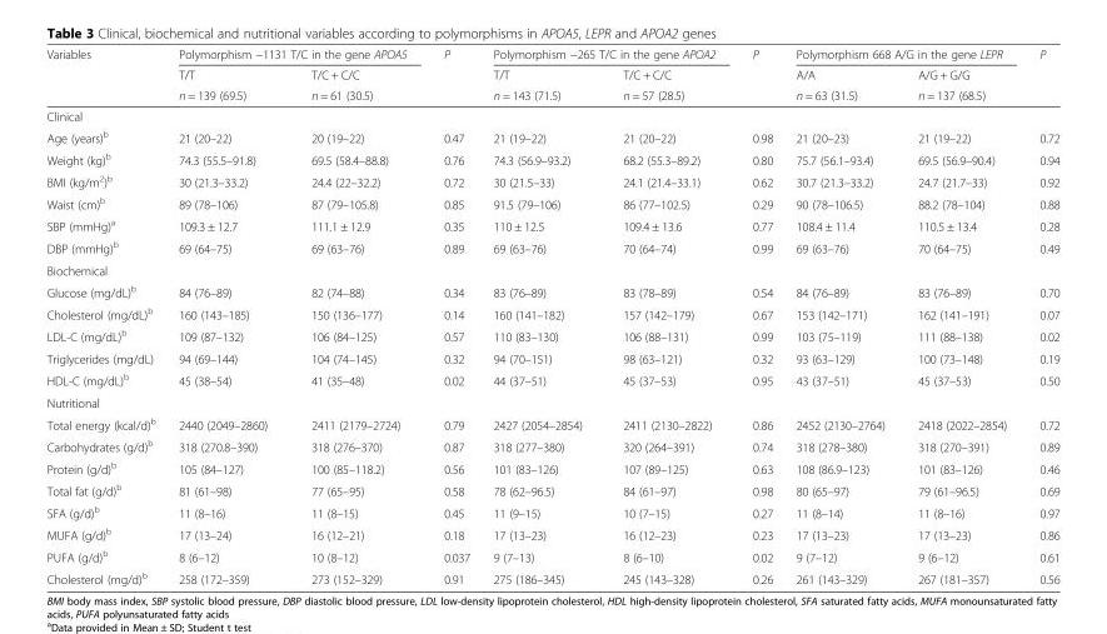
<table><thead><tr><td rowspan="3">Variables</td><td colspan="2">Polymorphism −1131 T/C in the gene APOA5</td><td rowspan="3">P</td><td colspan="2">Polymorphism −265 T/C in the gene APOA2</td><td rowspan="3">P</td><td colspan="2">Polymorphism 668 A/G in the gene LEPR</td><td rowspan="3">P</td></tr><tr><td rowspan="2">T/T n = 139 (69.5)</td><td rowspan="2">T/C + C/C n = 61 (30.5)</td><td rowspan="2">T/T n = 143 (71.5)</td><td rowspan="2">T/C + C/C n = 57 (28.5)</td><td rowspan="2">A/A n = 63 (31.5)</td><td rowspan="2">A/G + G/G n = 137 (68.5)</td></tr><tr></tr></thead><tbody><tr><td colspan="10">Clinical</td></tr><tr><td>Age (years)<sup>b</sup></td><td>21 (20–22)</td><td>20 (19–22)</td><td>0.47</td><td>21 (19–22)</td><td>21 (20–22)</td><td>0.98</td><td>21 (20–23)</td><td>21 (19–22)</td><td>0.72</td></tr><tr><td>Weight (kg)<sup>b</sup></td><td>74.3 (55.5–91.8)</td><td>69.5 (58.4–88.8)</td><td>0.76</td><td>74.3 (56.9–93.2)</td><td>68.2 (55.3–89.2)</td><td>0.80</td><td>75.7 (56.1–93.4)</td><td>69.5 (56.9–90.4)</td><td>0.94</td></tr><tr><td>BMI (kg/m<sup>2</sup>)<sup>b</sup></td><td>30 (21.3–33.2)</td><td>24.4 (22–32.2)</td><td>0.72</td><td>30 (21.5–33)</td><td>24.1 (21.4–33.1)</td><td>0.62</td><td>30.7 (21.3–33.2)</td><td>24.7 (21.7–33)</td><td>0.92</td></tr><tr><td>Waist (cm)<sup>b</sup></td><td>89 (78–106)</td><td>87 (79–105.8)</td><td>0.85</td><td>91.5 (79–106)</td><td>86 (77–102.5)</td><td>0.29</td><td>90 (78–106.5)</td><td>88.2 (78–104)</td><td>0.88</td></tr><tr><td>SBP (mmHg)<sup>a</sup></td><td>109.3 ± 12.7</td><td>111.1 ± 12.9</td><td>0.35</td><td>110 ± 12.5</td><td>109.4 ± 13.6</td><td>0.77</td><td>108.4 ± 11.4</td><td>110.5 ± 13.4</td><td>0.28</td></tr><tr><td>DBP (mmHg)<sup>b</sup></td><td>69 (64–75)</td><td>69 (63–76)</td><td>0.89</td><td>69 (63–76)</td><td>70 (64–74)</td><td>0.99</td><td>69 (63–76)</td><td>70 (64–75)</td><td>0.49</td></tr><tr><td colspan="10">Biochemical</td></tr><tr><td>Glucose (mg/dL)<sup>b</sup></td><td>84 (76–89)</td><td>82 (74–88)</td><td>0.34</td><td>83 (76–89)</td><td>83 (78–89)</td><td>0.54</td><td>84 (76–89)</td><td>83 (76–89)</td><td>0.70</td></tr><tr><td>Cholesterol (mg/dL)<sup>b</sup></td><td>160 (143–185)</td><td>150 (136–177)</td><td>0.14</td><td>160 (141–182)</td><td>157 (142–179)</td><td>0.67</td><td>153 (142–171)</td><td>162 (141–191)</td><td>0.07</td></tr><tr><td>LDL-C (mg/dL)<sup>b</sup></td><td>109 (87–132)</td><td>106 (84–125)</td><td>0.57</td><td>110 (83–130)</td><td>106 (88–131)</td><td>0.99</td><td>103 (75–119)</td><td>111 (88–138)</td><td>0.02</td></tr><tr><td>Triglycerides (mg/dL)</td><td>94 (69–144)</td><td>104 (74–145)</td><td>0.32</td><td>94 (70–151)</td><td>98 (63–121)</td><td>0.32</td><td>93 (63–129)</td><td>100 (73–148)</td><td>0.19</td></tr><tr><td>HDL-C (mg/dL)<sup>b</sup></td><td>45 (38–54)</td><td>41 (35–48)</td><td>0.02</td><td>44 (37–51)</td><td>45 (37–53)</td><td>0.95</td><td>43 (37–51)</td><td>45 (37–53)</td><td>0.50</td></tr><tr><td colspan="10">Nutritional</td></tr><tr><td>Total energy (kcal/d)<sup>b</sup></td><td>2440 (2049–2860)</td><td>2411 (2179–2724)</td><td>0.79</td><td>2427 (2054–2854)</td><td>2411 (2130–2822)</td><td>0.86</td><td>2452 (2130–2764)</td><td>2418 (2022–2854)</td><td>0.72</td></tr><tr><td>Carbohydrates (g/d)<sup>b</sup></td><td>318 (270.8–390)</td><td>318 (276–370)</td><td>0.87</td><td>318 (277–380)</td><td>320 (264–391)</td><td>0.74</td><td>318 (278–380)</td><td>318 (270–391)</td><td>0.89</td></tr><tr><td>Protein (g/d)<sup>b</sup></td><td>105 (84–127)</td><td>100 (85–118.2)</td><td>0.56</td><td>101 (83–126)</td><td>107 (89–125)</td><td>0.63</td><td>108 (86.9–123)</td><td>101 (83–126)</td><td>0.46</td></tr><tr><td>Total fat (g/d)<sup>b</sup></td><td>81 (61–98)</td><td>77 (65–95)</td><td>0.58</td><td>78 (62–96.5)</td><td>84 (61–97)</td><td>0.98</td><td>80 (65–97)</td><td>79 (61–96.5)</td><td>0.69</td></tr><tr><td>SFA (g/d)<sup>b</sup></td><td>11 (8–16)</td><td>11 (8–15)</td><td>0.45</td><td>11 (9–15)</td><td>10 (7–15)</td><td>0.27</td><td>11 (8–14)</td><td>11 (8–16)</td><td>0.97</td></tr><tr><td>MUFA (g/d)<sup>b</sup></td><td>17 (13–24)</td><td>16 (12–21)</td><td>0.18</td><td>17 (13–23)</td><td>16 (12–23)</td><td>0.23</td><td>17 (13–23)</td><td>17 (13–23)</td><td>0.86</td></tr><tr><td>PUFA (g/d)<sup>b</sup></td><td>8 (6–12)</td><td>10 (8–12)</td><td>0.037</td><td>9 (7–13)</td><td>8 (6–10)</td><td>0.02</td><td>9 (7–12)</td><td>9 (6–12)</td><td>0.61</td></tr><tr><td>Cholesterol (mg/d)<sup>b</sup></td><td>258 (172–359)</td><td>273 (152–329)</td><td>0.91</td><td>275 (186–345)</td><td>245 (143–328)</td><td>0.26</td><td>261 (143–329)</td><td>267 (181–357)</td><td>0.56</td></tr></tbody></table>